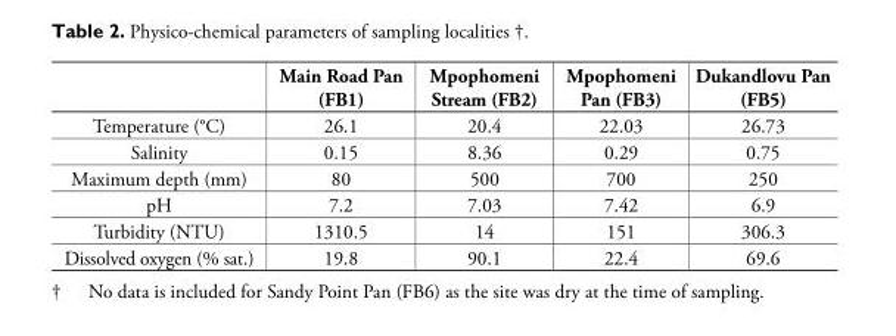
<table><thead><tr><td></td><td>Main Road Pan (FB1)</td><td>Mpophomeni Stream (FB2)</td><td>Mpophomeni Pan (FB3)</td><td>Dukandlovu Pan (FB5)</td></tr></thead><tbody><tr><td>Temperature (°C)</td><td>26.1</td><td>20.4</td><td>22.03</td><td>26.73</td></tr><tr><td>Salinity</td><td>0.15</td><td>8.36</td><td>0.29</td><td>0.75</td></tr><tr><td>Maximum depth (mm)</td><td>80</td><td>500</td><td>700</td><td>250</td></tr><tr><td>pH</td><td>7.2</td><td>7.03</td><td>7.42</td><td>6.9</td></tr><tr><td>Turbidity (NTU)</td><td>1310.5</td><td>14</td><td>151</td><td>306.3</td></tr><tr><td>Dissolved oxygen (% sat.)</td><td>19.8</td><td>90.1</td><td>22.4</td><td>69.6</td></tr></tbody></table>